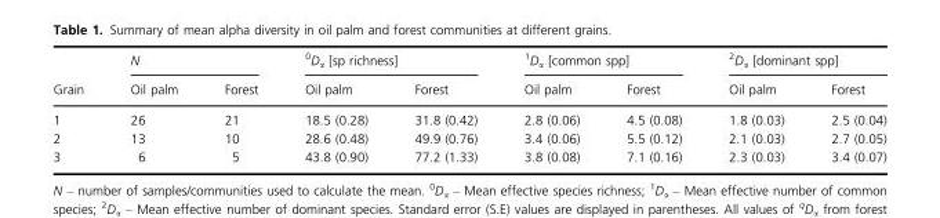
<table><thead><tr><td rowspan="2">Grain</td><td colspan="2">N</td><td colspan="2">0D<sub>α</sub> [sp richness]</td><td colspan="2">1D<sub>α</sub> [common spp]</td><td colspan="2">2D<sub>α</sub> [dominant spp]</td></tr><tr><td>Oil palm</td><td>Forest</td><td>Oil palm</td><td>Forest</td><td>Oil palm</td><td>Forest</td><td>Oil palm</td><td>Forest</td></tr></thead><tbody><tr><td>1</td><td>26</td><td>21</td><td>18.5 (0.28)</td><td>31.8 (0.42)</td><td>2.8 (0.06)</td><td>4.5 (0.08)</td><td>1.8 (0.03)</td><td>2.5 (0.04)</td></tr><tr><td>2</td><td>13</td><td>10</td><td>28.6 (0.48)</td><td>49.9 (0.76)</td><td>3.4 (0.06)</td><td>5.5 (0.12)</td><td>2.1 (0.03)</td><td>2.7 (0.05)</td></tr><tr><td>3</td><td>6</td><td>5</td><td>43.8 (0.90)</td><td>77.2 (1.33)</td><td>3.8 (0.08)</td><td>7.1 (0.16)</td><td>2.3 (0.03)</td><td>3.4 (0.07)</td></tr></tbody></table>